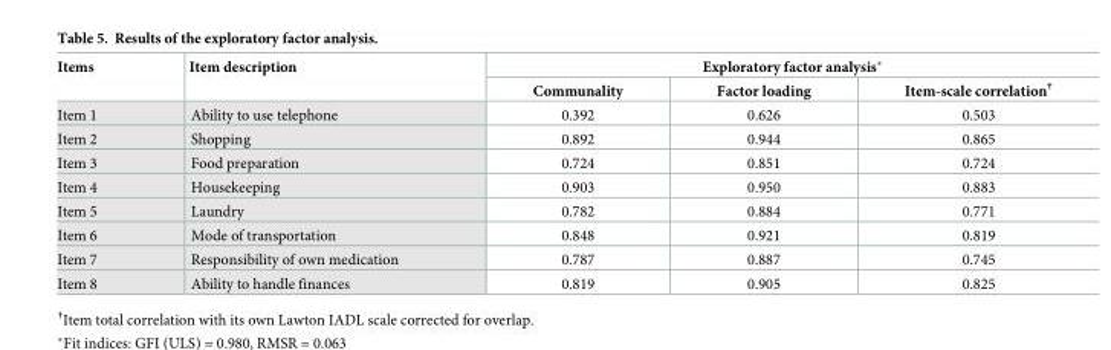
<table><thead><tr><td rowspan="2">Items</td><td rowspan="2">Item description</td><td colspan="3">Exploratory factor analysis*</td></tr><tr><td>Communality</td><td>Factor loading</td><td>Item-scale correlation<sup>†</sup></td></tr></thead><tbody><tr><td>Item 1</td><td>Ability to use telephone</td><td>0.392</td><td>0.626</td><td>0.503</td></tr><tr><td>Item 2</td><td>Shopping</td><td>0.892</td><td>0.944</td><td>0.865</td></tr><tr><td>Item 3</td><td>Food preparation</td><td>0.724</td><td>0.851</td><td>0.724</td></tr><tr><td>Item 4</td><td>Housekeeping</td><td>0.903</td><td>0.950</td><td>0.883</td></tr><tr><td>Item 5</td><td>Laundry</td><td>0.782</td><td>0.884</td><td>0.771</td></tr><tr><td>Item 6</td><td>Mode of transportation</td><td>0.848</td><td>0.921</td><td>0.819</td></tr><tr><td>Item 7</td><td>Responsibility of own medication</td><td>0.787</td><td>0.887</td><td>0.745</td></tr><tr><td>Item 8</td><td>Ability to handle finances</td><td>0.819</td><td>0.905</td><td>0.825</td></tr></tbody></table>